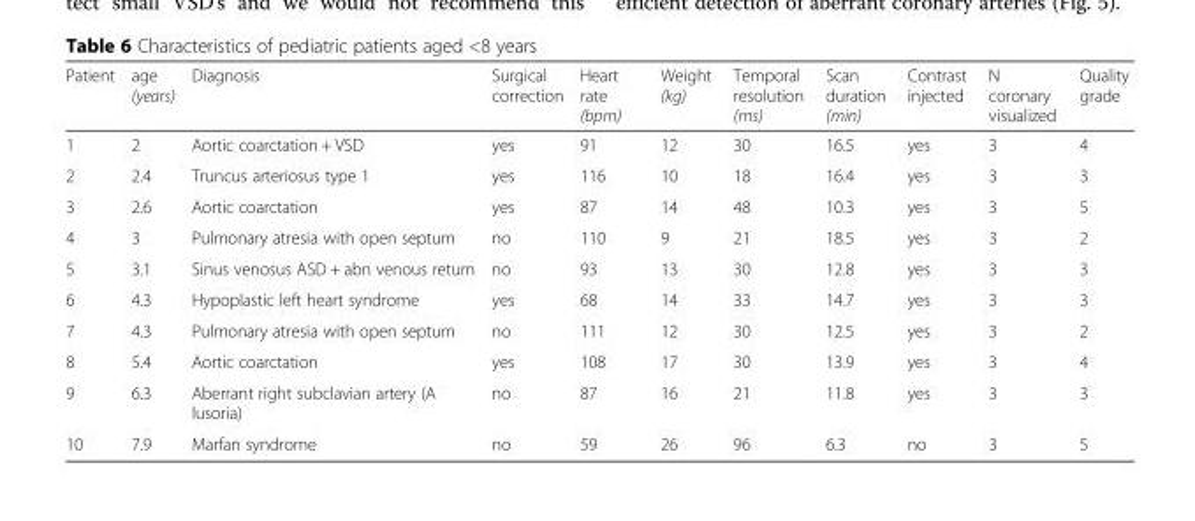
<table><thead><tr><td>Patient</td><td>age (years)</td><td>Diagnosis</td><td>Surgical correction</td><td>Heart rate (bpm)</td><td>Weight (kg)</td><td>Temporal resolution (ms)</td><td>Scan duration (min)</td><td>Contrast injected</td><td>N coronary visualized</td><td>Quality grade</td></tr></thead><tbody><tr><td>1</td><td>2</td><td>Aortic coarctation + VSD</td><td>yes</td><td>91</td><td>12</td><td>30</td><td>16.5</td><td>yes</td><td>3</td><td>4</td></tr><tr><td>2</td><td>2.4</td><td>Truncus arteriosus type 1</td><td>yes</td><td>116</td><td>10</td><td>18</td><td>16.4</td><td>yes</td><td>3</td><td>3</td></tr><tr><td>3</td><td>2.6</td><td>Aortic coarctation</td><td>yes</td><td>87</td><td>14</td><td>48</td><td>10.3</td><td>yes</td><td>3</td><td>5</td></tr><tr><td>4</td><td>3</td><td>Pulmonary atresia with open septum</td><td>no</td><td>110</td><td>9</td><td>21</td><td>18.5</td><td>yes</td><td>3</td><td>2</td></tr><tr><td>5</td><td>3.1</td><td>Sinus venosus ASD + abn venous return</td><td>no</td><td>93</td><td>13</td><td>30</td><td>12.8</td><td>yes</td><td>3</td><td>3</td></tr><tr><td>6</td><td>4.3</td><td>Hypoplastic left heart syndrome</td><td>yes</td><td>68</td><td>14</td><td>33</td><td>14.7</td><td>yes</td><td>3</td><td>3</td></tr><tr><td>7</td><td>4.3</td><td>Pulmonary atresia with open septum</td><td>no</td><td>111</td><td>12</td><td>30</td><td>12.5</td><td>yes</td><td>3</td><td>2</td></tr><tr><td>8</td><td>5.4</td><td>Aortic coarctation</td><td>yes</td><td>108</td><td>17</td><td>30</td><td>13.9</td><td>yes</td><td>3</td><td>4</td></tr><tr><td>9</td><td>6.3</td><td>Aberrant right subclavian artery (A lusoria)</td><td>no</td><td>87</td><td>16</td><td>21</td><td>11.8</td><td>yes</td><td>3</td><td>3</td></tr><tr><td>10</td><td>7.9</td><td>Marfan syndrome</td><td>no</td><td>59</td><td>26</td><td>96</td><td>6.3</td><td>no</td><td>3</td><td>5</td></tr></tbody></table>